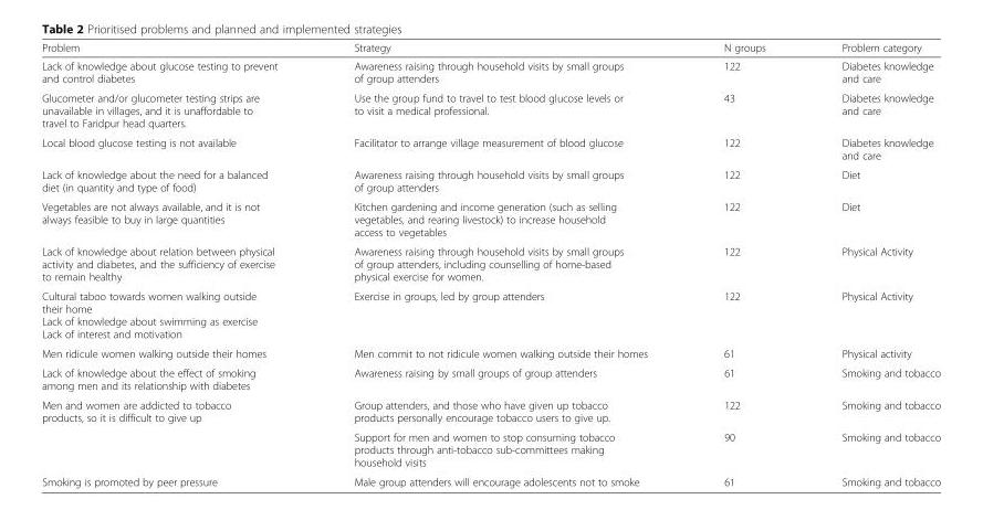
<table><thead><tr><td>Problem</td><td>Strategy</td><td>N groups</td><td>Problem category</td></tr></thead><tbody><tr><td>Lack of knowledge about glucose testing to prevent and control diabetes</td><td>Awareness raising through household visits by small groups of group attenders</td><td>122</td><td>Diabetes knowledge and care</td></tr><tr><td>Glucometer and/or glucometer testing strips are unavailable in villages, and it is unaffordable to travel to Faridpur head quarters.</td><td>Use the group fund to travel to test blood glucose levels or to visit a medical professional.</td><td>43</td><td>Diabetes knowledge and care</td></tr><tr><td>Local blood glucose testing is not available</td><td>Facilitator to arrange village measurement of blood glucose</td><td>122</td><td>Diabetes knowledge and care</td></tr><tr><td>Lack of knowledge about the need for a balanced diet (in quantity and type of food)</td><td>Awareness raising through household visits by small groups of group attenders</td><td>122</td><td>Diet</td></tr><tr><td>Vegetables are not always available, and it is not always feasible to buy in large quantities</td><td>Kitchen gardening and income generation (such as selling vegetables, and rearing livestock) to increase household access to vegetables</td><td>122</td><td>Diet</td></tr><tr><td>Lack of knowledge about relation between physical activity and diabetes, and the sufficiency of exercise to remain healthy</td><td>Awareness raising through household visits by small groups of group attenders, including counselling of home-based physical exercise for women.</td><td>122</td><td>Physical Activity</td></tr><tr><td>Cultural taboo towards women walking outside their home Lack of knowledge about swimming as exercise Lack of interest and motivation</td><td>Exercise in groups, led by group attenders</td><td>122</td><td>Physical Activity</td></tr><tr><td>Men ridicule women walking outside their homes</td><td>Men commit to not ridicule women walking outside their homes</td><td>61</td><td>Physical activity</td></tr><tr><td>Lack of knowledge about the effect of smoking among men and its relationship with diabetes</td><td>Awareness raising by small groups of group attenders</td><td>61</td><td>Smoking and tobacco</td></tr><tr><td rowspan="2">Men and women are addicted to tobacco products, so it is difficult to give up</td><td>Group attenders, and those who have given up tobacco products personally encourage tobacco users to give up.</td><td>122</td><td>Smoking and tobacco</td></tr><tr><td>Support for men and women to stop consuming tobacco products through anti-tobacco sub-committees making household visits</td><td>90</td><td>Smoking and tobacco</td></tr><tr><td>Smoking is promoted by peer pressure</td><td>Male group attenders will encourage adolescents not to smoke</td><td>61</td><td>Smoking and tobacco</td></tr></tbody></table>